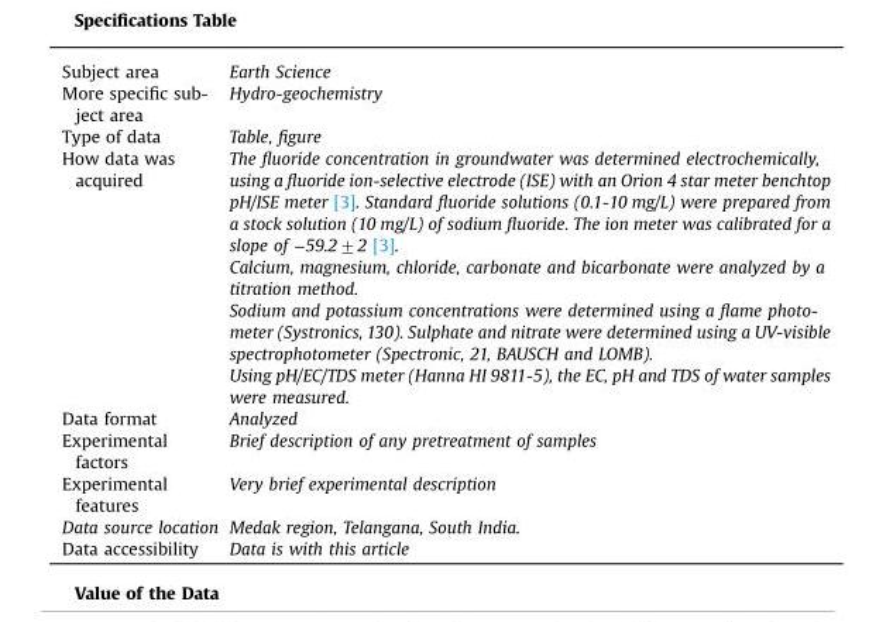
<table><tbody><tr><td>Subject area</td><td>Earth Science</td></tr><tr><td>More specific sub- ject area</td><td>Hydro-geochemistry</td></tr><tr><td>Type of data</td><td>Table, figure</td></tr><tr><td rowspan="4">How data was acquired</td><td>The fluoride concentration in groundwater was determined electrochemically, using a fluoride ion-selective electrode (ISE) with an Orion 4 star meter benchtop pH/ISE meter [3]. Standard fluoride solutions (0.1-10 mg/L) were prepared from a stock solution (10 mg/L) of sodium fluoride. The ion meter was calibrated for a slope of −59.2±2 [3].</td></tr><tr><td>Calcium, magnesium, chloride, carbonate and bicarbonate were analyzed by a titration method.</td></tr><tr><td>Sodium and potassium concentrations were determined using a flame photo- meter (Systronics, 130). Sulphate and nitrate were determined using a UV-visible spectrophotometer (Spectronic, 21, BAUSCH and LOMB).</td></tr><tr><td>Using pH/EC/TDS meter (Hanna HI 9811-5), the EC, pH and TDS of water samples were measured.</td></tr><tr><td>Data format</td><td>Analyzed</td></tr><tr><td>Experimental factors</td><td>Brief description of any pretreatment of samples</td></tr><tr><td>Experimental features</td><td>Very brief experimental description</td></tr><tr><td>Data source location</td><td>Medak region, Telangana, South India.</td></tr><tr><td>Data accessibility</td><td>Data is with this article</td></tr></tbody></table>